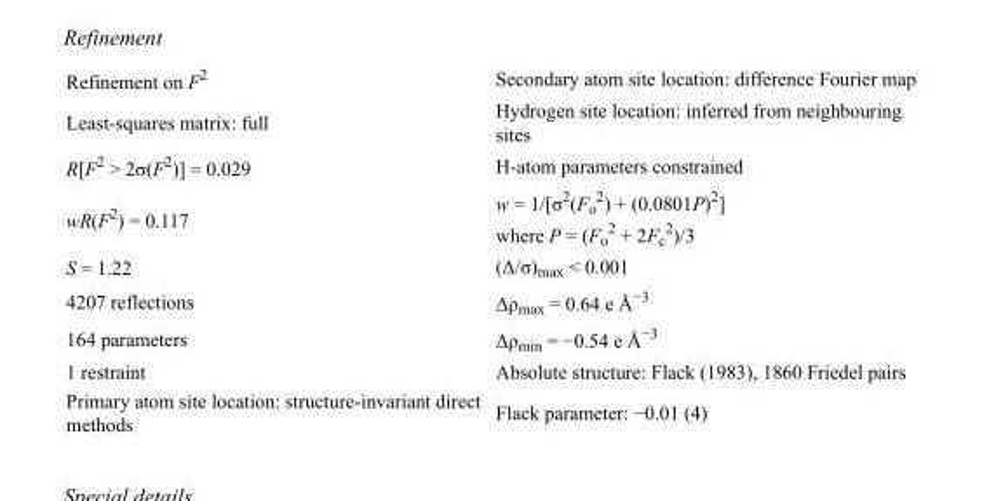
<table><tbody><tr><td>Refinement on F<sup>2</sup></td><td>Secondary atom site location: difference Fourier map</td></tr><tr><td>Least-squares matrix: full</td><td>Hydrogen site location: inferred from neighbouring sites</td></tr><tr><td>R[F<sup>2</sup> &gt; 2σ(F<sup>2</sup>)] = 0.029</td><td>H-atom parameters constrained</td></tr><tr><td>wR(F<sup>2</sup>) = 0.117</td><td>w = 1/[σ<sup>2</sup>(F<sub>o</sub> <sup>2</sup>) + (0.0801P)<sup>2</sup>] where P = (F<sub>o</sub> <sup>2</sup> + 2F<sub>c</sub> <sup>2</sup>)/3</td></tr><tr><td>S = 1.22</td><td>(Δ/σ)<sub>max</sub> &lt; 0.001</td></tr><tr><td>4207 reflections</td><td>Δρ<sub>max</sub> = 0.64 e Å<sup>−3</sup></td></tr><tr><td>164 parameters</td><td>Δρ<sub>min</sub> = −0.54 e Å<sup>−3</sup></td></tr><tr><td>1 restraint</td><td>Absolute structure: Flack (1983), 1860 Friedel pairs</td></tr><tr><td>Primary atom site location: structure-invariant direct methods</td><td>Flack parameter: −0.01 (4)</td></tr></tbody></table>